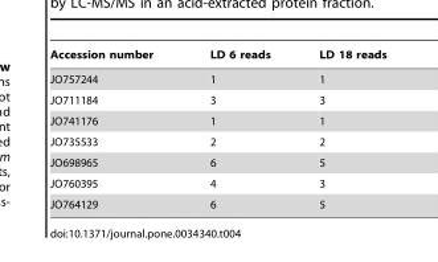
<table><thead><tr><td>Accession number</td><td>LD 6 reads</td><td>LD 18 reads</td></tr></thead><tbody><tr><td>JO757244</td><td>1</td><td>1</td></tr><tr><td>JO711184</td><td>3</td><td>3</td></tr><tr><td>JO741176</td><td>1</td><td>1</td></tr><tr><td>JO735533</td><td>2</td><td>2</td></tr><tr><td>JO698965</td><td>6</td><td>5</td></tr><tr><td>JO760395</td><td>4</td><td>3</td></tr><tr><td>JO764129</td><td>6</td><td>5</td></tr></tbody></table>